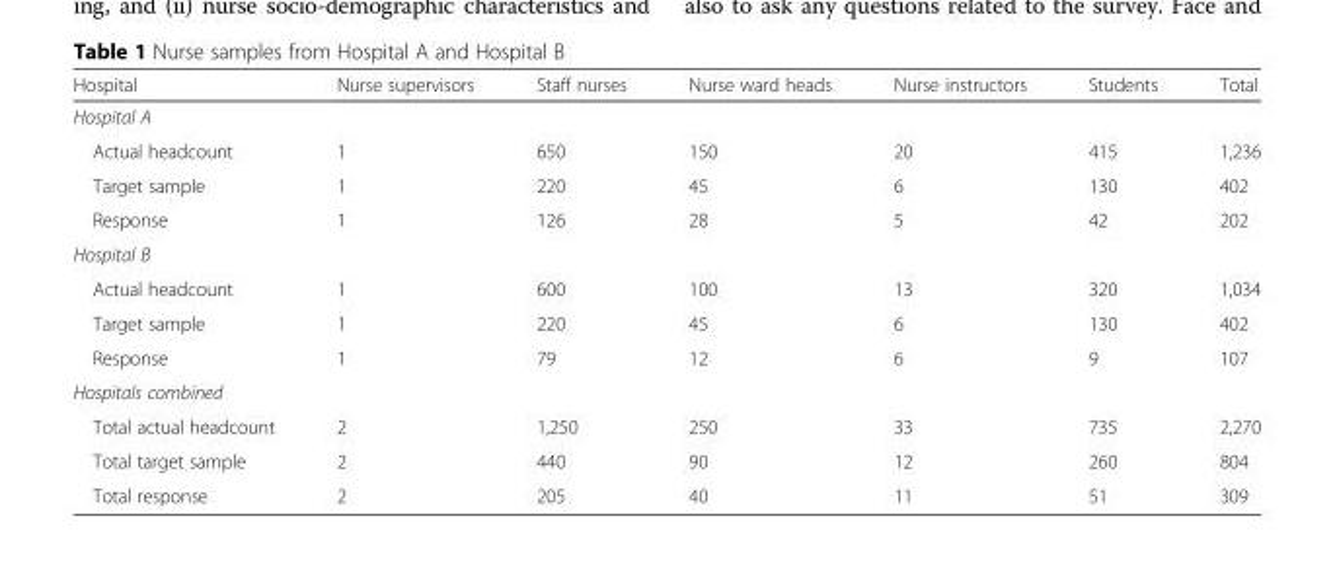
<table><thead><tr><td>Hospital</td><td>Nurse supervisors</td><td>Staff nurses</td><td>Nurse ward heads</td><td>Nurse instructors</td><td>Students</td><td>Total</td></tr></thead><tbody><tr><td colspan="7">Hospital A</td></tr><tr><td>Actual headcount</td><td>1</td><td>650</td><td>150</td><td>20</td><td>415</td><td>1,236</td></tr><tr><td>Target sample</td><td>1</td><td>220</td><td>45</td><td>6</td><td>130</td><td>402</td></tr><tr><td>Response</td><td>1</td><td>126</td><td>28</td><td>5</td><td>42</td><td>202</td></tr><tr><td colspan="7">Hospital B</td></tr><tr><td>Actual headcount</td><td>1</td><td>600</td><td>100</td><td>13</td><td>320</td><td>1,034</td></tr><tr><td>Target sample</td><td>1</td><td>220</td><td>45</td><td>6</td><td>130</td><td>402</td></tr><tr><td>Response</td><td>1</td><td>79</td><td>12</td><td>6</td><td>9</td><td>107</td></tr><tr><td colspan="7">Hospitals combined</td></tr><tr><td>Total actual headcount</td><td>2</td><td>1,250</td><td>250</td><td>33</td><td>735</td><td>2,270</td></tr><tr><td>Total target sample</td><td>2</td><td>440</td><td>90</td><td>12</td><td>260</td><td>804</td></tr><tr><td>Total response</td><td>2</td><td>205</td><td>40</td><td>11</td><td>51</td><td>309</td></tr></tbody></table>